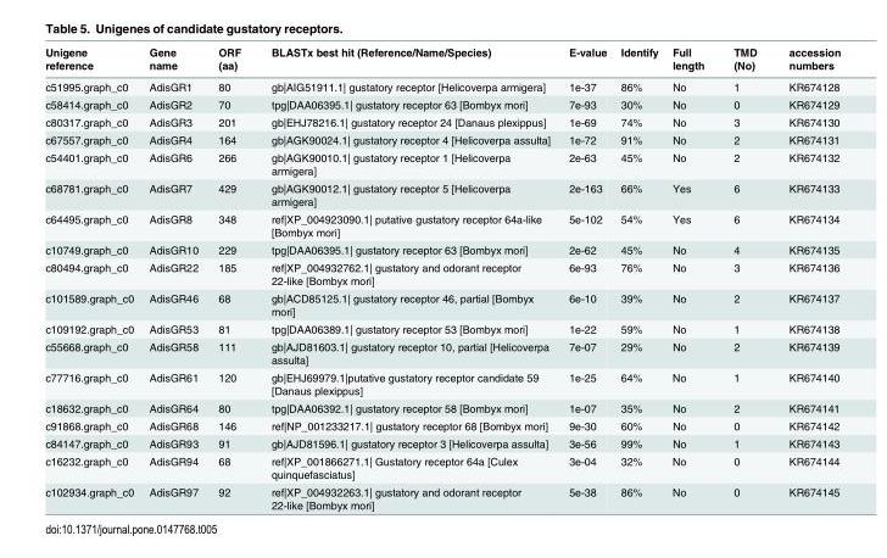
<table><thead><tr><td>Unigene reference</td><td>Gene name</td><td>ORF (aa)</td><td>BLASTx best hit (Reference/Name/Species)</td><td>E-value</td><td>Identify</td><td>Full length</td><td>TMD (No)</td><td>accession numbers</td></tr></thead><tbody><tr><td>c51995.graph_c0</td><td>AdisGR1</td><td>80</td><td>gb|AIG51911.1| gustatory receptor [Helicoverpa armigera]</td><td>1e-37</td><td>86%</td><td>No</td><td>1</td><td>KR674128</td></tr><tr><td>c58414.graph_c0</td><td>AdisGR2</td><td>70</td><td>tpg|DAA06395.1| gustatory receptor 63 [Bombyx mori]</td><td>7e-93</td><td>30%</td><td>No</td><td>0</td><td>KR674129</td></tr><tr><td>c80317.graph_c0</td><td>AdisGR3</td><td>201</td><td>gb|EHJ78216.1| gustatory receptor 24 [Danaus plexippus]</td><td>1e-69</td><td>74%</td><td>No</td><td>3</td><td>KR674130</td></tr><tr><td>c67557.graph_c0</td><td>AdisGR4</td><td>164</td><td>gb|AGK90024.1| gustatory receptor 4 [Helicoverpa assulta]</td><td>1e-72</td><td>91%</td><td>No</td><td>2</td><td>KR674131</td></tr><tr><td>c54401.graph_c0</td><td>AdisGR6</td><td>266</td><td>gb|AGK90010.1| gustatory receptor 1 [Helicoverpa armigera]</td><td>2e-63</td><td>45%</td><td>No</td><td>2</td><td>KR674132</td></tr><tr><td>c68781.graph_c0</td><td>AdisGR7</td><td>429</td><td>gb|AGK90012.1| gustatory receptor 5 [Helicoverpa armigera]</td><td>2e-163</td><td>66%</td><td>Yes</td><td>6</td><td>KR674133</td></tr><tr><td>c64495.graph_c0</td><td>AdisGR8</td><td>348</td><td>ref|XP_004923090.1| putative gustatory receptor 64a-like [Bombyx mori]</td><td>5e-102</td><td>54%</td><td>Yes</td><td>6</td><td>KR674134</td></tr><tr><td>c10749.graph_c0</td><td>AdisGR10</td><td>229</td><td>tpg|DAA06395.1| gustatory receptor 63 [Bombyx mori]</td><td>2e-62</td><td>45%</td><td>No</td><td>4</td><td>KR674135</td></tr><tr><td>c80494.graph_c0</td><td>AdisGR22</td><td>185</td><td>ref|XP_004932762.1| gustatory and odorant receptor 22-like [Bombyx mori]</td><td>6e-93</td><td>76%</td><td>No</td><td>3</td><td>KR674136</td></tr><tr><td>c101589.graph_c0</td><td>AdisGR46</td><td>68</td><td>gb|ACD85125.1| gustatory receptor 46, partial [Bombyx mori]</td><td>6e-10</td><td>39%</td><td>No</td><td>2</td><td>KR674137</td></tr><tr><td>c109192.graph_c0</td><td>AdisGR53</td><td>81</td><td>tpg|DAA06389.1| gustatory receptor 53 [Bombyx mori]</td><td>1e-22</td><td>59%</td><td>No</td><td>1</td><td>KR674138</td></tr><tr><td>c55668.graph_c0</td><td>AdisGR58</td><td>111</td><td>gb|AJD81603.1| gustatory receptor 10, partial [Helicoverpa assulta]</td><td>7e-07</td><td>29%</td><td>No</td><td>2</td><td>KR674139</td></tr><tr><td>c77716.graph_c0</td><td>AdisGR61</td><td>120</td><td>gb|EHJ69979.1|putative gustatory receptor candidate 59 [Danaus plexippus]</td><td>1e-25</td><td>64%</td><td>No</td><td>1</td><td>KR674140</td></tr><tr><td>c18632.graph_c0</td><td>AdisGR64</td><td>80</td><td>tpg|DAA06392.1| gustatory receptor 58 [Bombyx mori]</td><td>1e-07</td><td>35%</td><td>No</td><td>2</td><td>KR674141</td></tr><tr><td>c91868.graph_c0</td><td>AdisGR68</td><td>146</td><td>ref|NP_001233217.1| gustatory receptor 68 [Bombyx mori]</td><td>9e-30</td><td>60%</td><td>No</td><td>0</td><td>KR674142</td></tr><tr><td>c84147.graph_c0</td><td>AdisGR93</td><td>91</td><td>gb|AJD81596.1| gustatory receptor 3 [Helicoverpa assulta]</td><td>3e-56</td><td>99%</td><td>No</td><td>1</td><td>KR674143</td></tr><tr><td>c16232.graph_c0</td><td>AdisGR94</td><td>68</td><td>ref|XP_001866271.1| Gustatory receptor 64a [Culex quinquefasciatus]</td><td>3e-04</td><td>32%</td><td>No</td><td>0</td><td>KR674144</td></tr><tr><td>c102934.graph_c0</td><td>AdisGR97</td><td>92</td><td>ref|XP_004932263.1| gustatory and odorant receptor 22-like [Bombyx mori]</td><td>5e-38</td><td>86%</td><td>No</td><td>0</td><td>KR674145</td></tr></tbody></table>